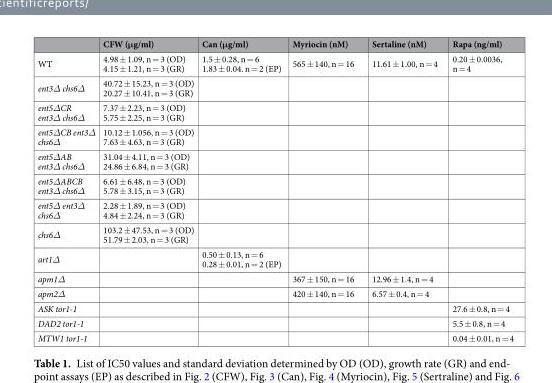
<table><thead><tr><td></td><td>CFW (μg/ml)</td><td>Can (μg/ml)</td><td>Myriocin (nM)</td><td>Sertaline (nM)</td><td>Rapa (ng/ml)</td></tr></thead><tbody><tr><td>WT</td><td>4.98 ± 1.09, n = 3 (OD) 4.15 ± 1.21, n = 3 (GR)</td><td>1.5 ± 0.28, n = 6 1.83 ± 0.04. n = 2 (EP)</td><td>565 ± 140, n = 16</td><td>11.61 ± 1.00, n = 4</td><td>0.20 ± 0.0036, n = 4</td></tr><tr><td>ent3Δ chs6Δ</td><td>40.72 ± 15.23, n = 3 (OD) 20.27 ± 10.41, n = 3 (GR)</td><td></td><td></td><td></td><td></td></tr><tr><td>ent5ΔCR ent3Δ chs6Δ</td><td>7.37 ± 2.23, n = 3 (OD) 5.75 ± 2.25, n = 3 (GR)</td><td></td><td></td><td></td><td></td></tr><tr><td>ent5ΔCB ent3Δ chs6Δ</td><td>10.12 ± 1.056, n = 3 (OD) 7.63 ± 4.63, n = 3 (GR)</td><td></td><td></td><td></td><td></td></tr><tr><td>ent5ΔAB ent3Δ chs6Δ</td><td>31.04 ± 4.11, n = 3 (OD) 24.86 ± 6.84, n = 3 (GR)</td><td></td><td></td><td></td><td></td></tr><tr><td>ent5ΔABCB ent3Δ chs6Δ</td><td>6.61 ± 6.48, n = 3 (OD) 5.78 ± 3.15, n = 3 (GR)</td><td></td><td></td><td></td><td></td></tr><tr><td>ent5Δ ent3Δ chs6Δ</td><td>2.28 ± 1.89, n = 3 (OD) 4.84 ± 2.24, n = 3 (GR)</td><td></td><td></td><td></td><td></td></tr><tr><td>chs6Δ</td><td>103.2 ± 47.53, n = 3 (OD) 51.79 ± 2.03, n = 3 (GR)</td><td></td><td></td><td></td><td></td></tr><tr><td>art1Δ</td><td></td><td>0.50 ± 0.13, n = 6 0.28 ± 0.01, n = 2 (EP)</td><td></td><td></td><td></td></tr><tr><td>apm1Δ</td><td></td><td></td><td>367 ± 150, n = 16</td><td>12.96 ± 1.4, n = 4</td><td></td></tr><tr><td>apm2Δ</td><td></td><td></td><td>420 ± 140, n = 16</td><td>6.57 ± 0.4, n = 4</td><td></td></tr><tr><td>ASK tor1-1</td><td></td><td></td><td></td><td></td><td>27.6 ± 0.8, n = 4</td></tr><tr><td>DAD2 tor1-1</td><td></td><td></td><td></td><td></td><td>5.5 ± 0.8, n = 4</td></tr><tr><td>MTW1 tor1-1</td><td></td><td></td><td></td><td></td><td>0.04 ± 0.01, n = 4</td></tr></tbody></table>